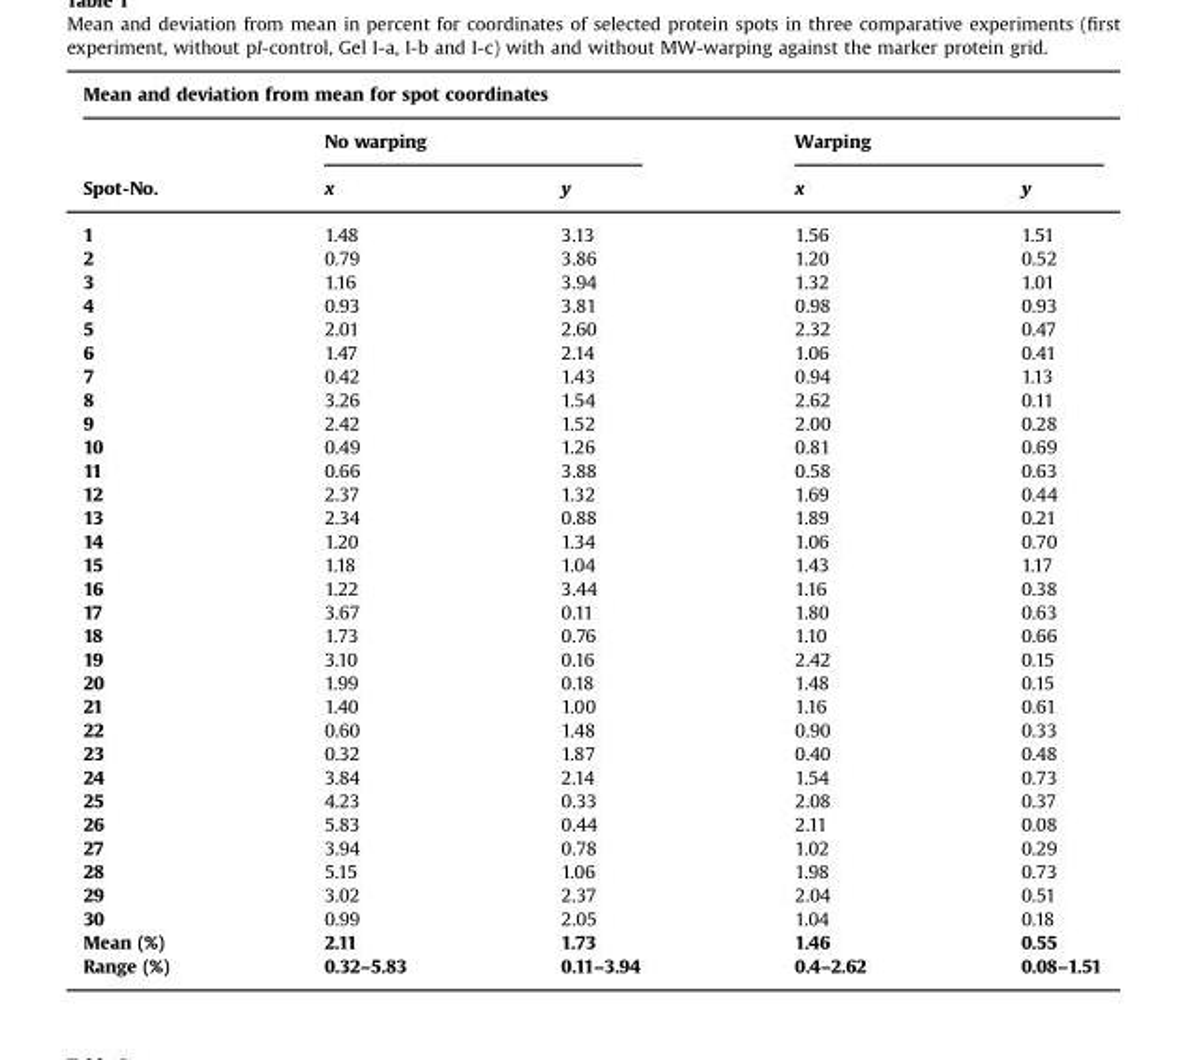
<table><thead><tr><td colspan="5">Mean and deviation from mean for spot coordinates</td></tr><tr><td rowspan="2">Spot-No.</td><td colspan="2">No warping</td><td colspan="2">Warping</td></tr><tr><td>x</td><td>y</td><td>x</td><td>y</td></tr></thead><tbody><tr><td>1</td><td>1.48</td><td>3.13</td><td>1.56</td><td>1.51</td></tr><tr><td>2</td><td>0.79</td><td>3.86</td><td>1.20</td><td>0.52</td></tr><tr><td>3</td><td>1.16</td><td>3.94</td><td>1.32</td><td>1.01</td></tr><tr><td>4</td><td>0.93</td><td>3.81</td><td>0.98</td><td>0.93</td></tr><tr><td>5</td><td>2.01</td><td>2.60</td><td>2.32</td><td>0.47</td></tr><tr><td>6</td><td>1.47</td><td>2.14</td><td>1.06</td><td>0.41</td></tr><tr><td>7</td><td>0.42</td><td>1.43</td><td>0.94</td><td>1.13</td></tr><tr><td>8</td><td>3.26</td><td>1.54</td><td>2.62</td><td>0.11</td></tr><tr><td>9</td><td>2.42</td><td>1.52</td><td>2.00</td><td>0.28</td></tr><tr><td>10</td><td>0.49</td><td>1.26</td><td>0.81</td><td>0.69</td></tr><tr><td>11</td><td>0.66</td><td>3.88</td><td>0.58</td><td>0.63</td></tr><tr><td>12</td><td>2.37</td><td>1.32</td><td>1.69</td><td>0.44</td></tr><tr><td>13</td><td>2.34</td><td>0.88</td><td>1.89</td><td>0.21</td></tr><tr><td>14</td><td>1.20</td><td>1.34</td><td>1.06</td><td>0.70</td></tr><tr><td>15</td><td>1.18</td><td>1.04</td><td>1.43</td><td>1.17</td></tr><tr><td>16</td><td>1.22</td><td>3.44</td><td>1.16</td><td>0.38</td></tr><tr><td>17</td><td>3.67</td><td>0.11</td><td>1.80</td><td>0.63</td></tr><tr><td>18</td><td>1.73</td><td>0.76</td><td>1.10</td><td>0.66</td></tr><tr><td>19</td><td>3.10</td><td>0.16</td><td>2.42</td><td>0.15</td></tr><tr><td>20</td><td>1.99</td><td>0.18</td><td>1.48</td><td>0.15</td></tr><tr><td>21</td><td>1.40</td><td>1.00</td><td>1.16</td><td>0.61</td></tr><tr><td>22</td><td>0.60</td><td>1.48</td><td>0.90</td><td>0.33</td></tr><tr><td>23</td><td>0.32</td><td>1.87</td><td>0.40</td><td>0.48</td></tr><tr><td>24</td><td>3.84</td><td>2.14</td><td>1.54</td><td>0.73</td></tr><tr><td>25</td><td>4.23</td><td>0.33</td><td>2.08</td><td>0.37</td></tr><tr><td>26</td><td>5.83</td><td>0.44</td><td>2.11</td><td>0.08</td></tr><tr><td>27</td><td>3.94</td><td>0.78</td><td>1.02</td><td>0.29</td></tr><tr><td>28</td><td>5.15</td><td>1.06</td><td>1.98</td><td>0.73</td></tr><tr><td>29</td><td>3.02</td><td>2.37</td><td>2.04</td><td>0.51</td></tr><tr><td>30</td><td>0.99</td><td>2.05</td><td>1.04</td><td>0.18</td></tr><tr><td>Mean (%)</td><td>2.11</td><td>1.73</td><td>1.46</td><td>0.55</td></tr><tr><td>Range (%)</td><td>0.32–5.83</td><td>0.11–3.94</td><td>0.4–2.62</td><td>0.08–1.51</td></tr></tbody></table>